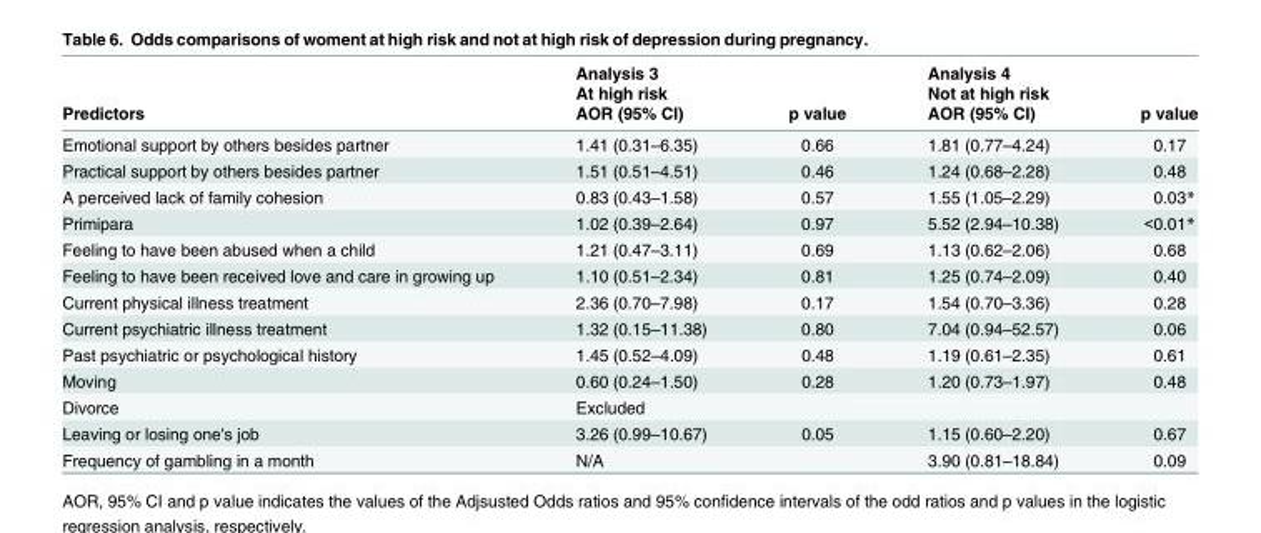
<table><thead><tr><td rowspan="3">Predictors</td><td rowspan="3">Analysis 3 At high risk AOR (95% CI)</td><td rowspan="3">p value</td><td rowspan="3">Analysis 4 Not at high risk AOR (95% CI)</td><td rowspan="3">p value</td></tr><tr></tr><tr></tr></thead><tbody><tr><td>Emotional support by others besides partner</td><td>1.41 (0.31–6.35)</td><td>0.66</td><td>1.81 (0.77–4.24)</td><td>0.17</td></tr><tr><td>Practical support by others besides partner</td><td>1.51 (0.51–4.51)</td><td>0.46</td><td>1.24 (0.68–2.28)</td><td>0.48</td></tr><tr><td>A perceived lack of family cohesion</td><td>0.83 (0.43–1.58)</td><td>0.57</td><td>1.55 (1.05–2.29)</td><td>0.03*</td></tr><tr><td>Primipara</td><td>1.02 (0.39–2.64)</td><td>0.97</td><td>5.52 (2.94–10.38)</td><td>&lt;0.01*</td></tr><tr><td>Feeling to have been abused when a child</td><td>1.21 (0.47–3.11)</td><td>0.69</td><td>1.13 (0.62–2.06)</td><td>0.68</td></tr><tr><td>Feeling to have been received love and care in growing up</td><td>1.10 (0.51–2.34)</td><td>0.81</td><td>1.25 (0.74–2.09)</td><td>0.40</td></tr><tr><td>Current physical illness treatment</td><td>2.36 (0.70–7.98)</td><td>0.17</td><td>1.54 (0.70–3.36)</td><td>0.28</td></tr><tr><td>Current psychiatric illness treatment</td><td>1.32 (0.15–11.38)</td><td>0.80</td><td>7.04 (0.94–52.57)</td><td>0.06</td></tr><tr><td>Past psychiatric or psychological history</td><td>1.45 (0.52–4.09)</td><td>0.48</td><td>1.19 (0.61–2.35)</td><td>0.61</td></tr><tr><td>Moving</td><td>0.60 (0.24–1.50)</td><td>0.28</td><td>1.20 (0.73–1.97)</td><td>0.48</td></tr><tr><td>Divorce</td><td>Excluded</td><td></td><td></td><td></td></tr><tr><td>Leaving or losing one&#x27;s job</td><td>3.26 (0.99–10.67)</td><td>0.05</td><td>1.15 (0.60–2.20)</td><td>0.67</td></tr><tr><td>Frequency of gambling in a month</td><td>N/A</td><td></td><td>3.90 (0.81–18.84)</td><td>0.09</td></tr></tbody></table>